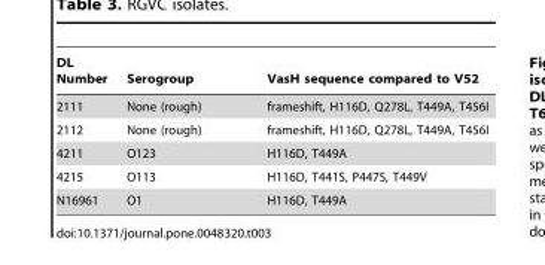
<table><thead><tr><td>DL Number</td><td>Serogroup</td><td>VasH sequence compared to V52</td></tr></thead><tbody><tr><td>2111</td><td>None (rough)</td><td>frameshift, H116D, Q278L, T449A, T456I</td></tr><tr><td>2112</td><td>None (rough)</td><td>frameshift, H116D, Q278L, T449A, T456I</td></tr><tr><td>4211</td><td>O123</td><td>H116D, T449A</td></tr><tr><td>4215</td><td>O113</td><td>H116D, T441S, P447S, T449V</td></tr><tr><td>N16961</td><td>O1</td><td>H116D, T449A</td></tr></tbody></table>